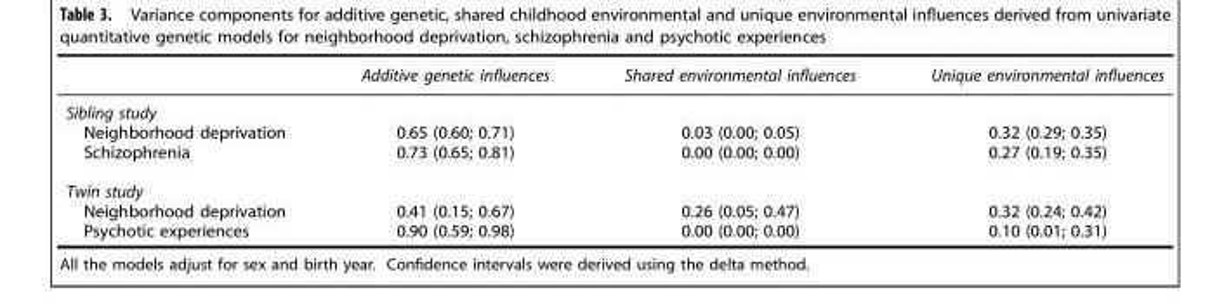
<table><thead><tr><td></td><td>Additive genetic influences</td><td>Shared environmental influences</td><td>Unique environmental influences</td></tr></thead><tbody><tr><td colspan="4">Sibling study</td></tr><tr><td>Neighborhood deprivation</td><td>0.65 (0.60; 0.71)</td><td>0.03 (0.00; 0.05)</td><td>0.32 (0.29; 0.35)</td></tr><tr><td>Schizophrenia</td><td>0.73 (0.65; 0.81)</td><td>0.00 (0.00; 0.00)</td><td>0.27 (0.19; 0.35)</td></tr><tr><td colspan="4">Twin study</td></tr><tr><td>Neighborhood deprivation</td><td>0.41 (0.15; 0.67)</td><td>0.26 (0.05; 0.47)</td><td>0.32 (0.24; 0.42)</td></tr><tr><td>Psychotic experiences</td><td>0.90 (0.59; 0.98)</td><td>0.00 (0.00; 0.00)</td><td>0.10 (0.01; 0.31)</td></tr></tbody></table>